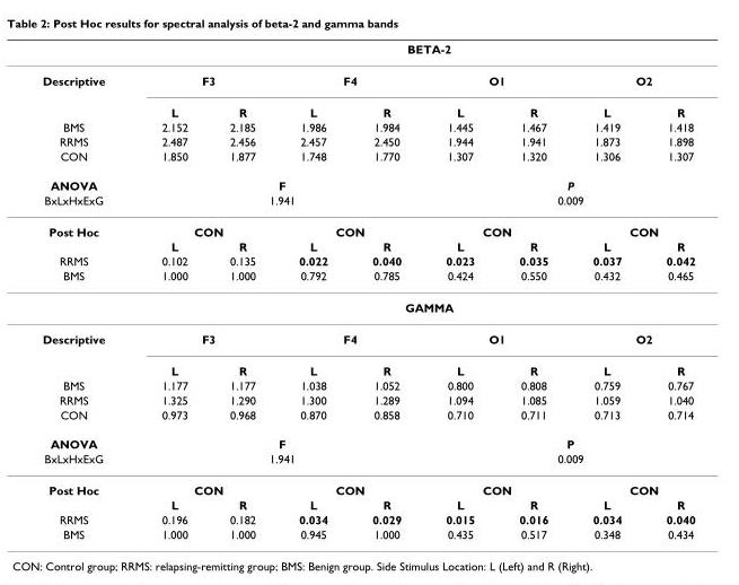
<table><thead><tr><td rowspan="3">Descriptive</td><td colspan="8">BETA-2</td></tr><tr><td colspan="2">F3</td><td colspan="2">F4</td><td colspan="2">O1</td><td colspan="2">O2</td></tr><tr><td>L</td><td>R</td><td>L</td><td>R</td><td>L</td><td>R</td><td>L</td><td>R</td></tr></thead><tbody><tr><td>BMS</td><td>2.152</td><td>2.185</td><td>1.986</td><td>1.984</td><td>1.445</td><td>1.467</td><td>1.419</td><td>1.418</td></tr><tr><td>RRMS</td><td>2.487</td><td>2.456</td><td>2.457</td><td>2.450</td><td>1.944</td><td>1.941</td><td>1.873</td><td>1.898</td></tr><tr><td>CON</td><td>1.850</td><td>1.877</td><td>1.748</td><td>1.770</td><td>1.307</td><td>1.320</td><td>1.306</td><td>1.307</td></tr><tr><td>ANOVA</td><td colspan="4">F</td><td colspan="4">P</td></tr><tr><td>BxLxHxExG</td><td colspan="4">1.941</td><td colspan="4">0.009</td></tr><tr><td rowspan="2">Post Hoc</td><td colspan="2">CON</td><td colspan="2">CON</td><td colspan="2">CON</td><td colspan="2">CON</td></tr><tr><td>L</td><td>R</td><td>L</td><td>R</td><td>L</td><td>R</td><td>L</td><td>R</td></tr><tr><td>RRMS</td><td>0.102</td><td>0.135</td><td>0.022</td><td>0.040</td><td>0.023</td><td>0.035</td><td>0.037</td><td>0.042</td></tr><tr><td rowspan="2">BMS</td><td>1.000</td><td>1.000</td><td>0.792</td><td>0.785</td><td>0.424</td><td>0.550</td><td>0.432</td><td>0.465</td></tr><tr><td colspan="8">GAMMA</td></tr><tr><td rowspan="2">Descriptive</td><td colspan="2">F3</td><td colspan="2">F4</td><td colspan="2">O1</td><td colspan="2">O2</td></tr><tr><td>L</td><td>R</td><td>L</td><td>R</td><td>L</td><td>R</td><td>L</td><td>R</td></tr><tr><td>BMS</td><td>1.177</td><td>1.177</td><td>1.038</td><td>1.052</td><td>0.800</td><td>0.808</td><td>0.759</td><td>0.767</td></tr><tr><td>RRMS</td><td>1.325</td><td>1.290</td><td>1.300</td><td>1.289</td><td>1.094</td><td>1.085</td><td>1.059</td><td>1.040</td></tr><tr><td>CON</td><td>0.973</td><td>0.968</td><td>0.870</td><td>0.858</td><td>0.710</td><td>0.711</td><td>0.713</td><td>0.714</td></tr><tr><td>ANOVA</td><td colspan="4">F</td><td colspan="4">P</td></tr><tr><td>BxLxHxExG</td><td colspan="4">1.941</td><td colspan="4">0.009</td></tr><tr><td rowspan="2">Post Hoc</td><td colspan="2">CON</td><td colspan="2">CON</td><td colspan="2">CON</td><td colspan="2">CON</td></tr><tr><td>L</td><td>R</td><td>L</td><td>R</td><td>L</td><td>R</td><td>L</td><td>R</td></tr><tr><td>RRMS</td><td>0.196</td><td>0.182</td><td>0.034</td><td>0.029</td><td>0.015</td><td>0.016</td><td>0.034</td><td>0.040</td></tr><tr><td>BMS</td><td>1.000</td><td>1.000</td><td>0.945</td><td>1.000</td><td>0.435</td><td>0.517</td><td>0.348</td><td>0.434</td></tr></tbody></table>